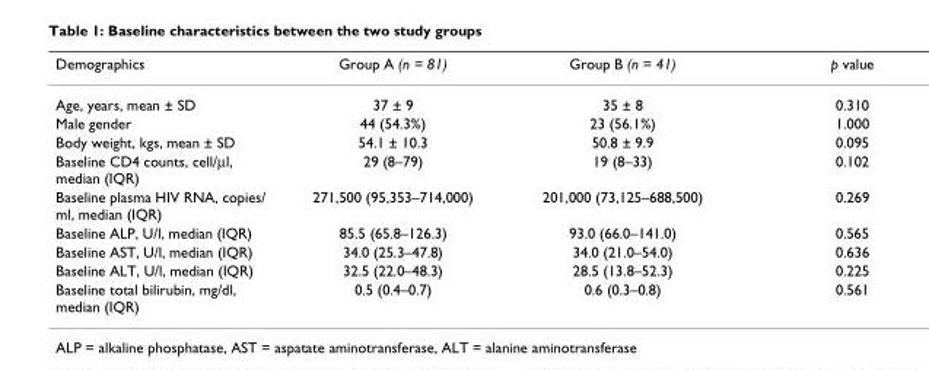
<table><thead><tr><td>Demographics</td><td>Group A (n = 81)</td><td>Group B (n = 41)</td><td>p value</td></tr></thead><tbody><tr><td>Age, years, mean ± SD</td><td>37 ± 9</td><td>35 ± 8</td><td>0.310</td></tr><tr><td>Male gender</td><td>44 (54.3%)</td><td>23 (56.1%)</td><td>1.000</td></tr><tr><td>Body weight, kgs, mean ± SD</td><td>54.1 ± 10.3</td><td>50.8 ± 9.9</td><td>0.095</td></tr><tr><td>Baseline CD4 counts, cell/μl, median (IQR)</td><td>29 (8–79)</td><td>19 (8–33)</td><td>0.102</td></tr><tr><td>Baseline plasma HIV RNA, copies/ ml, median (IQR)</td><td>271,500 (95,353–714,000)</td><td>201,000 (73,125–688,500)</td><td>0.269</td></tr><tr><td>Baseline ALP, U/l, median (IQR)</td><td>85.5 (65.8–126.3)</td><td>93.0 (66.0–141.0)</td><td>0.565</td></tr><tr><td>Baseline AST, U/l, median (IQR)</td><td>34.0 (25.3–47.8)</td><td>34.0 (21.0–54.0)</td><td>0.636</td></tr><tr><td>Baseline ALT, U/l, median (IQR)</td><td>32.5 (22.0–48.3)</td><td>28.5 (13.8–52.3)</td><td>0.225</td></tr><tr><td>Baseline total bilirubin, mg/dl, median (IQR)</td><td>0.5 (0.4–0.7)</td><td>0.6 (0.3–0.8)</td><td>0.561</td></tr></tbody></table>